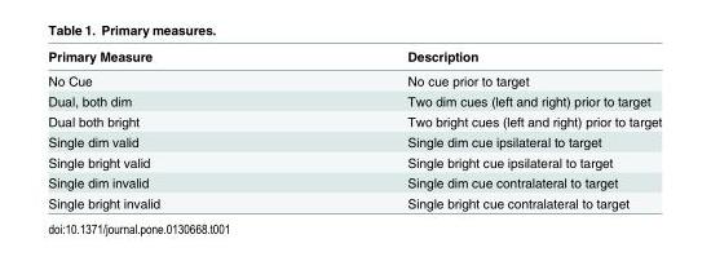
<table><thead><tr><td>Primary Measure</td><td>Description</td></tr></thead><tbody><tr><td>No Cue</td><td>No cue prior to target</td></tr><tr><td>Dual, both dim</td><td>Two dim cues (left and right) prior to target</td></tr><tr><td>Dual both bright</td><td>Two bright cues (left and right) prior to target</td></tr><tr><td>Single dim valid</td><td>Single dim cue ipsilateral to target</td></tr><tr><td>Single bright valid</td><td>Single bright cue ipsilateral to target</td></tr><tr><td>Single dim invalid</td><td>Single dim cue contralateral to target</td></tr><tr><td>Single bright invalid</td><td>Single bright cue contralateral to target</td></tr></tbody></table>